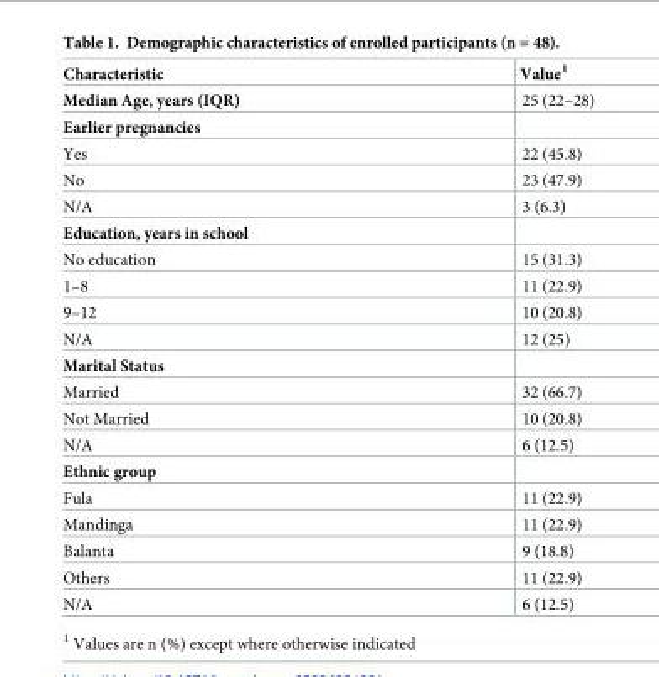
<table><thead><tr><td>Characteristic</td><td>Value<sup>1</sup></td></tr></thead><tbody><tr><td>Median Age, years (IQR)</td><td>25 (22–28)</td></tr><tr><td colspan="2">Earlier pregnancies</td></tr><tr><td>Yes</td><td>22 (45.8)</td></tr><tr><td>No</td><td>23 (47.9)</td></tr><tr><td>N/A</td><td>3 (6.3)</td></tr><tr><td colspan="2">Education, years in school</td></tr><tr><td>No education</td><td>15 (31.3)</td></tr><tr><td>1–8</td><td>11 (22.9)</td></tr><tr><td>9–12</td><td>10 (20.8)</td></tr><tr><td>N/A</td><td>12 (25)</td></tr><tr><td colspan="2">Marital Status</td></tr><tr><td>Married</td><td>32 (66.7)</td></tr><tr><td>Not Married</td><td>10 (20.8)</td></tr><tr><td>N/A</td><td>6 (12.5)</td></tr><tr><td colspan="2">Ethnic group</td></tr><tr><td>Fula</td><td>11 (22.9)</td></tr><tr><td>Mandinga</td><td>11 (22.9)</td></tr><tr><td>Balanta</td><td>9 (18.8)</td></tr><tr><td>Others</td><td>11 (22.9)</td></tr><tr><td>N/A</td><td>6 (12.5)</td></tr></tbody></table>